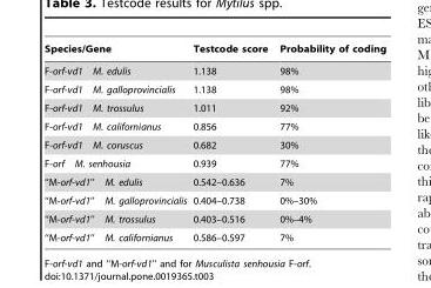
<table><thead><tr><td>Species/Gene</td><td>Testcode score</td><td>Probability of coding</td></tr></thead><tbody><tr><td>F-orf-vd1 M. edulis</td><td>1.138</td><td>98%</td></tr><tr><td>F-orf-vd1 M. galloprovincialis</td><td>1.138</td><td>98%</td></tr><tr><td>F-orf-vd1 M. trossulus</td><td>1.011</td><td>92%</td></tr><tr><td>F-orf-vd1 M. californianus</td><td>0.856</td><td>77%</td></tr><tr><td>F-orf-vd1 M. coruscus</td><td>0.682</td><td>30%</td></tr><tr><td>F-orf M. senhousia</td><td>0.939</td><td>77%</td></tr><tr><td>‘‘M-orf-vd1’’ M. edulis</td><td>0.542–0.636</td><td>7%</td></tr><tr><td>‘‘M-orf-vd1’’ M. galloprovincialis</td><td>0.404–0.738</td><td>0%–30%</td></tr><tr><td>‘‘M-orf-vd1’’ M. trossulus</td><td>0.403–0.516</td><td>0%–4%</td></tr><tr><td>‘‘M-orf-vd1’’ M. californianus</td><td>0.586–0.597</td><td>7%</td></tr></tbody></table>